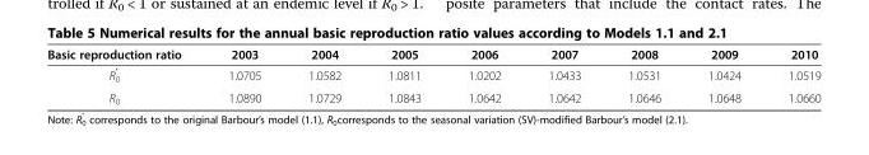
<table><thead><tr><td>Basic reproduction ratio</td><td>2003</td><td>2004</td><td>2005</td><td>2006</td><td>2007</td><td>2008</td><td>2009</td><td>2010</td></tr></thead><tbody><tr><td>R<sup>′</sup> <sub>0</sub></td><td>1.0705</td><td>1.0582</td><td>1.0811</td><td>1.0202</td><td>1.0433</td><td>1.0531</td><td>1.0424</td><td>1.0519</td></tr><tr><td>R<sub>0</sub></td><td>1.0890</td><td>1.0729</td><td>1.0843</td><td>1.0642</td><td>1.0642</td><td>1.0646</td><td>1.0648</td><td>1.0660</td></tr></tbody></table>